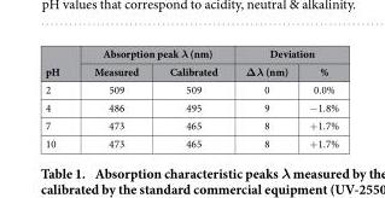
<table><thead><tr><td rowspan="2">pH</td><td colspan="2">Absorption peak λ (nm)</td><td colspan="2">Deviation</td></tr><tr><td>Measured</td><td>Calibrated</td><td>Δλ (nm)</td><td>%</td></tr></thead><tbody><tr><td>2</td><td>509</td><td>509</td><td>0</td><td>0.0%</td></tr><tr><td>4</td><td>486</td><td>495</td><td>9</td><td>− 1.8%</td></tr><tr><td>7</td><td>473</td><td>465</td><td>8</td><td>+ 1.7%</td></tr><tr><td>10</td><td>473</td><td>465</td><td>8</td><td>+ 1.7%</td></tr></tbody></table>